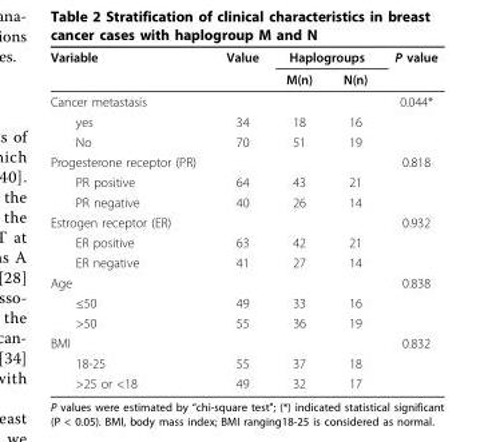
<table><thead><tr><td rowspan="2">Variable</td><td rowspan="2">Value</td><td colspan="2">Haplogroups</td><td rowspan="2">P value</td></tr><tr><td>M(n)</td><td>N(n)</td></tr></thead><tbody><tr><td>Cancer metastasis</td><td></td><td></td><td></td><td>0.044*</td></tr><tr><td>yes</td><td>34</td><td>18</td><td>16</td><td></td></tr><tr><td>No</td><td>70</td><td>51</td><td>19</td><td></td></tr><tr><td>Progesterone receptor (PR)</td><td></td><td></td><td></td><td>0.818</td></tr><tr><td>PR positive</td><td>64</td><td>43</td><td>21</td><td></td></tr><tr><td>PR negative</td><td>40</td><td>26</td><td>14</td><td></td></tr><tr><td>Estrogen receptor (ER)</td><td></td><td></td><td></td><td>0.932</td></tr><tr><td>ER positive</td><td>63</td><td>42</td><td>21</td><td></td></tr><tr><td>ER negative</td><td>41</td><td>27</td><td>14</td><td></td></tr><tr><td>Age</td><td></td><td></td><td></td><td>0.838</td></tr><tr><td>≤50</td><td>49</td><td>33</td><td>16</td><td></td></tr><tr><td>&gt;50</td><td>55</td><td>36</td><td>19</td><td></td></tr><tr><td>BMI</td><td></td><td></td><td></td><td>0.832</td></tr><tr><td>18-25</td><td>55</td><td>37</td><td>18</td><td></td></tr><tr><td>&gt;25 or &lt;18</td><td>49</td><td>32</td><td>17</td><td></td></tr></tbody></table>